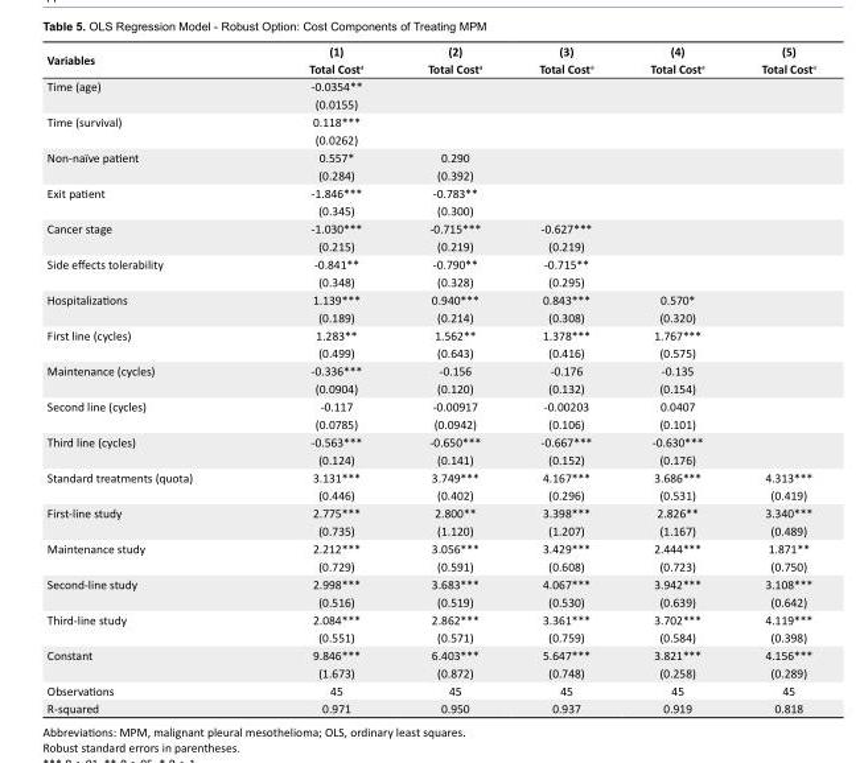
<table><tbody><tr><td rowspan="2">Variables</td><td>(1)</td><td>(2)</td><td>(3)</td><td>(4)</td><td>(5)</td></tr><tr><td>Total Cost<sup>a</sup></td><td>Total Cost<sup>a</sup></td><td>Total Cost<sup>a</sup></td><td>Total Cost<sup>a</sup></td><td>Total Cost<sup>a</sup></td></tr><tr><td rowspan="2">Time (age)</td><td>-0.0354**</td><td></td><td></td><td></td><td></td></tr><tr><td>(0.0155)</td><td></td><td></td><td></td><td></td></tr><tr><td rowspan="2">Time (survival)</td><td>0.118***</td><td></td><td></td><td></td><td></td></tr><tr><td>(0.0262)</td><td></td><td></td><td></td><td></td></tr><tr><td rowspan="2">Non-naïve patient</td><td>0.557*</td><td>0.290</td><td></td><td></td><td></td></tr><tr><td>(0.284)</td><td>(0.392)</td><td></td><td></td><td></td></tr><tr><td rowspan="2">Exit patient</td><td>-1.846***</td><td>-0.783**</td><td></td><td></td><td></td></tr><tr><td>(0.345)</td><td>(0.300)</td><td></td><td></td><td></td></tr><tr><td rowspan="2">Cancer stage</td><td>-1.030***</td><td>-0.715***</td><td>-0.627***</td><td></td><td></td></tr><tr><td>(0.215)</td><td>(0.219)</td><td>(0.219)</td><td></td><td></td></tr><tr><td rowspan="2">Side effects tolerability</td><td>-0.841**</td><td>-0.790**</td><td>-0.715**</td><td></td><td></td></tr><tr><td>(0.348)</td><td>(0.328)</td><td>(0.295)</td><td></td><td></td></tr><tr><td rowspan="2">Hospitalizations</td><td>1.139***</td><td>0.940***</td><td>0.843***</td><td>0.570*</td><td></td></tr><tr><td>(0.189)</td><td>(0.214)</td><td>(0.308)</td><td>(0.320)</td><td></td></tr><tr><td rowspan="2">First line (cycles)</td><td>1.283**</td><td>1.562**</td><td>1.378***</td><td>1.767***</td><td></td></tr><tr><td>(0.499)</td><td>(0.643)</td><td>(0.416)</td><td>(0.575)</td><td></td></tr><tr><td rowspan="2">Maintenance (cycles)</td><td>-0.336***</td><td>-0.156</td><td>-0.176</td><td>-0.135</td><td></td></tr><tr><td>(0.0904)</td><td>(0.120)</td><td>(0.132)</td><td>(0.154)</td><td></td></tr><tr><td rowspan="2">Second line (cycles)</td><td>-0.117</td><td>-0.00917</td><td>-0.00203</td><td>0.0407</td><td></td></tr><tr><td>(0.0785)</td><td>(0.0942)</td><td>(0.106)</td><td>(0.101)</td><td></td></tr><tr><td rowspan="2">Third line (cycles)</td><td>-0.563***</td><td>-0.650***</td><td>-0.667***</td><td>-0.630***</td><td></td></tr><tr><td>(0.124)</td><td>(0.141)</td><td>(0.152)</td><td>(0.176)</td><td></td></tr><tr><td rowspan="2">Standard treatments (quota)</td><td>3.131***</td><td>3.749***</td><td>4.167***</td><td>3.686***</td><td>4.313***</td></tr><tr><td>(0.446)</td><td>(0.402)</td><td>(0.296)</td><td>(0.531)</td><td>(0.419)</td></tr><tr><td rowspan="2">First-line study</td><td>2.775***</td><td>2.800**</td><td>3.398***</td><td>2.826**</td><td>3.340***</td></tr><tr><td>(0.735)</td><td>(1.120)</td><td>(1.207)</td><td>(1.167)</td><td>(0.489)</td></tr><tr><td rowspan="2">Maintenance study</td><td>2.212***</td><td>3.056***</td><td>3.429***</td><td>2.444***</td><td>1.871**</td></tr><tr><td>(0.729)</td><td>(0.591)</td><td>(0.608)</td><td>(0.723)</td><td>(0.750)</td></tr><tr><td rowspan="2">Second-line study</td><td>2.998***</td><td>3.683***</td><td>4.067***</td><td>3.942***</td><td>3.108***</td></tr><tr><td>(0.516)</td><td>(0.519)</td><td>(0.530)</td><td>(0.639)</td><td>(0.642)</td></tr><tr><td rowspan="2">Third-line study</td><td>2.084***</td><td>2.862***</td><td>3.361***</td><td>3.702***</td><td>4.119***</td></tr><tr><td>(0.551)</td><td>(0.571)</td><td>(0.759)</td><td>(0.584)</td><td>(0.398)</td></tr><tr><td rowspan="2">Constant</td><td>9.846***</td><td>6.403***</td><td>5.647***</td><td>3.821***</td><td>4.156***</td></tr><tr><td>(1.673)</td><td>(0.872)</td><td>(0.748)</td><td>(0.258)</td><td>(0.289)</td></tr><tr><td>Observations</td><td>45</td><td>45</td><td>45</td><td>45</td><td>45</td></tr><tr><td>R-squared</td><td>0.971</td><td>0.950</td><td>0.937</td><td>0.919</td><td>0.818</td></tr></tbody></table>